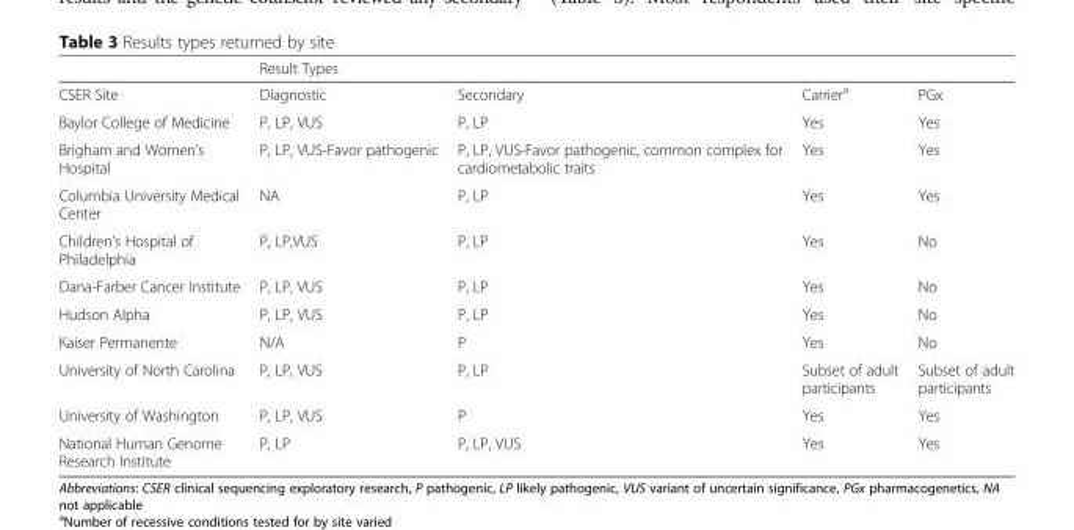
<table><thead><tr><td rowspan="2">CSER Site</td><td colspan="4">Result Types</td></tr><tr><td>Diagnostic</td><td>Secondary</td><td>Carrier<sup>a</sup></td><td>PGx</td></tr></thead><tbody><tr><td>Baylor College of Medicine</td><td>P, LP, VUS</td><td>P, LP</td><td>Yes</td><td>Yes</td></tr><tr><td>Brigham and Women’s Hospital</td><td>P, LP, VUS-Favor pathogenic</td><td>P, LP, VUS-Favor pathogenic, common complex for cardiometabolic traits</td><td>Yes</td><td>Yes</td></tr><tr><td>Columbia University Medical Center</td><td>NA</td><td>P, LP</td><td>Yes</td><td>Yes</td></tr><tr><td>Children’s Hospital of Philadelphia</td><td>P, LP,VUS</td><td>P, LP</td><td>Yes</td><td>No</td></tr><tr><td>Dana-Farber Cancer Institute</td><td>P, LP, VUS</td><td>P, LP</td><td>Yes</td><td>No</td></tr><tr><td>Hudson Alpha</td><td>P, LP, VUS</td><td>P, LP</td><td>Yes</td><td>No</td></tr><tr><td>Kaiser Permanente</td><td>N/A</td><td>P</td><td>Yes</td><td>No</td></tr><tr><td>University of North Carolina</td><td>P, LP, VUS</td><td>P, LP</td><td>Subset of adult participants</td><td>Subset of adult participants</td></tr><tr><td>University of Washington</td><td>P, LP, VUS</td><td>P</td><td>Yes</td><td>Yes</td></tr><tr><td>National Human Genome Research Institute</td><td>P, LP</td><td>P, LP, VUS</td><td>Yes</td><td>Yes</td></tr></tbody></table>